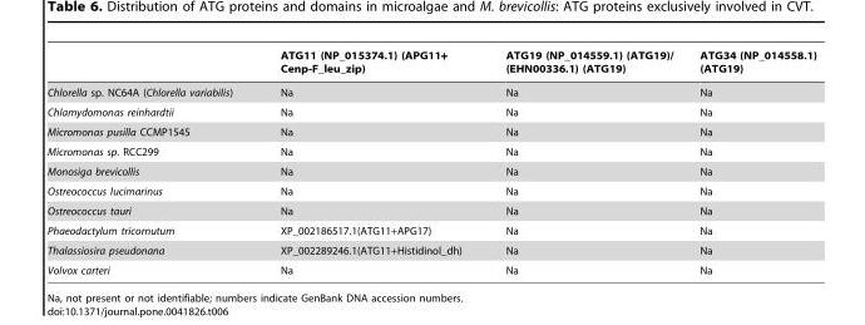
<table><thead><tr><td></td><td>ATG11 (NP_015374.1) (APG11+ Cenp-F_leu_zip)</td><td>ATG19 (NP_014559.1) (ATG19)/ (EHN00336.1) (ATG19)</td><td>ATG34 (NP_014558.1) (ATG19)</td></tr></thead><tbody><tr><td>Chlorella sp. NC64A (Chlorella variabilis)</td><td>Na</td><td>Na</td><td>Na</td></tr><tr><td>Chlamydomonas reinhardtii</td><td>Na</td><td>Na</td><td>Na</td></tr><tr><td>Micromonas pusilla CCMP1545</td><td>Na</td><td>Na</td><td>Na</td></tr><tr><td>Micromonas sp. RCC299</td><td>Na</td><td>Na</td><td>Na</td></tr><tr><td>Monosiga brevicollis</td><td>Na</td><td>Na</td><td>Na</td></tr><tr><td>Ostreococcus lucimarinus</td><td>Na</td><td>Na</td><td>Na</td></tr><tr><td>Ostreococcus tauri</td><td>Na</td><td>Na</td><td>Na</td></tr><tr><td>Phaeodactylum tricornutum</td><td>XP_002186517.1(ATG11+APG17)</td><td>Na</td><td>Na</td></tr><tr><td>Thalassiosira pseudonana</td><td>XP_002289246.1(ATG11+Histidinol_dh)</td><td>Na</td><td>Na</td></tr><tr><td>Volvox carteri</td><td>Na</td><td>Na</td><td>Na</td></tr></tbody></table>